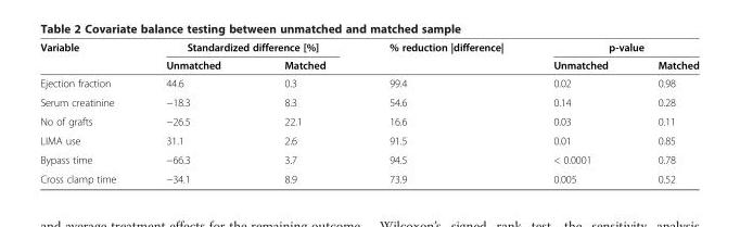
<table><thead><tr><td rowspan="2">Variable</td><td colspan="2">Standardized difference [%]</td><td rowspan="2">% reduction |difference|</td><td colspan="2">p-value</td></tr><tr><td>Unmatched</td><td>Matched</td><td>Unmatched</td><td>Matched</td></tr></thead><tbody><tr><td>Ejection fraction</td><td>44.6</td><td>0.3</td><td>99.4</td><td>0.02</td><td>0.98</td></tr><tr><td>Serum creatinine</td><td>−18.3</td><td>8.3</td><td>54.6</td><td>0.14</td><td>0.28</td></tr><tr><td>No of grafts</td><td>−26.5</td><td>22.1</td><td>16.6</td><td>0.03</td><td>0.11</td></tr><tr><td>LIMA use</td><td>31.1</td><td>2.6</td><td>91.5</td><td>0.01</td><td>0.85</td></tr><tr><td>Bypass time</td><td>−66.3</td><td>3.7</td><td>94.5</td><td>&lt; 0.0001</td><td>0.78</td></tr><tr><td>Cross clamp time</td><td>−34.1</td><td>8.9</td><td>73.9</td><td>0.005</td><td>0.52</td></tr></tbody></table>